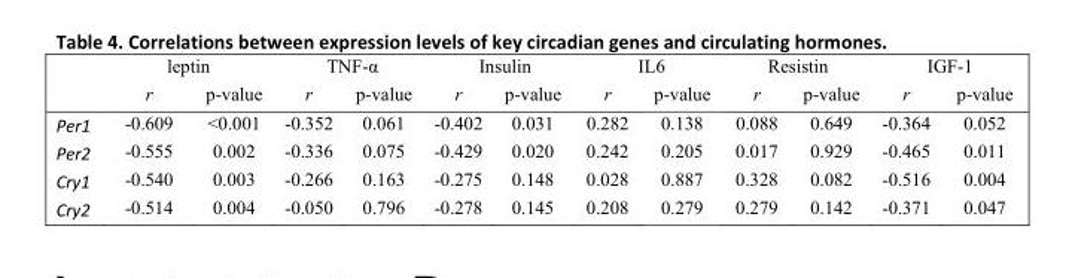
<table><thead><tr><td rowspan="2"></td><td colspan="2">leptin</td><td colspan="2">TNF-α</td><td colspan="2">Insulin</td><td colspan="2">IL6</td><td colspan="2">Resistin</td><td colspan="2">IGF-1</td></tr><tr><td>r</td><td>p-value</td><td>r</td><td>p-value</td><td>r</td><td>p-value</td><td>r</td><td>p-value</td><td>r</td><td>p-value</td><td>r</td><td>p-value</td></tr></thead><tbody><tr><td>Per1</td><td>-0.609</td><td>&lt;0.001</td><td>-0.352</td><td>0.061</td><td>-0.402</td><td>0.031</td><td>0.282</td><td>0.138</td><td>0.088</td><td>0.649</td><td>-0.364</td><td>0.052</td></tr><tr><td>Per2</td><td>-0.555</td><td>0.002</td><td>-0.336</td><td>0.075</td><td>-0.429</td><td>0.020</td><td>0.242</td><td>0.205</td><td>0.017</td><td>0.929</td><td>-0.465</td><td>0.011</td></tr><tr><td>Cry1</td><td>-0.540</td><td>0.003</td><td>-0.266</td><td>0.163</td><td>-0.275</td><td>0.148</td><td>0.028</td><td>0.887</td><td>0.328</td><td>0.082</td><td>-0.516</td><td>0.004</td></tr><tr><td>Cry2</td><td>-0.514</td><td>0.004</td><td>-0.050</td><td>0.796</td><td>-0.278</td><td>0.145</td><td>0.208</td><td>0.279</td><td>0.279</td><td>0.142</td><td>-0.371</td><td>0.047</td></tr></tbody></table>